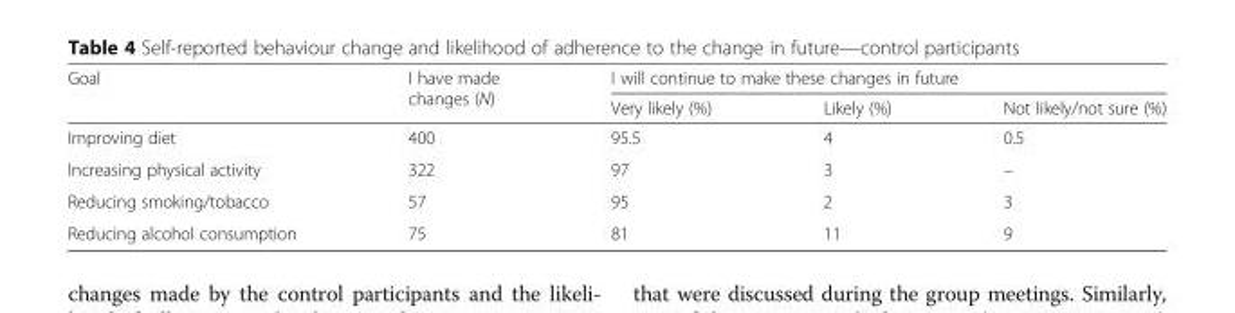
<table><thead><tr><td rowspan="2">Goal</td><td rowspan="2">I have made changes (N)</td><td colspan="3">I will continue to make these changes in future</td></tr><tr><td>Very likely (%)</td><td>Likely (%)</td><td>Not likely/not sure (%)</td></tr></thead><tbody><tr><td>Improving diet</td><td>400</td><td>95.5</td><td>4</td><td>0.5</td></tr><tr><td>Increasing physical activity</td><td>322</td><td>97</td><td>3</td><td>–</td></tr><tr><td>Reducing smoking/tobacco</td><td>57</td><td>95</td><td>2</td><td>3</td></tr><tr><td>Reducing alcohol consumption</td><td>75</td><td>81</td><td>11</td><td>9</td></tr></tbody></table>